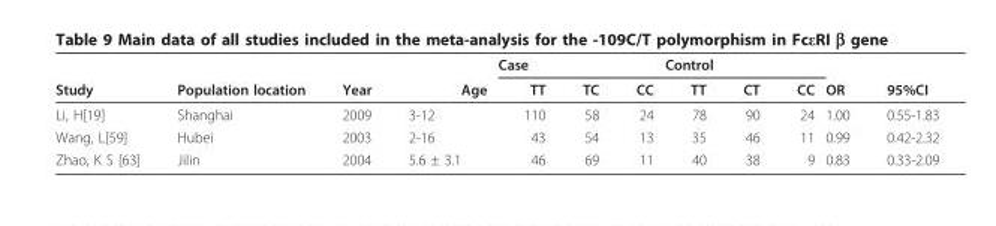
<table><thead><tr><td rowspan="2">Study</td><td rowspan="2">Population location</td><td rowspan="2">Year</td><td rowspan="2">Age</td><td colspan="3">Case</td><td colspan="3">Control</td><td rowspan="2">OR</td><td rowspan="2">95%CI</td></tr><tr><td>TT</td><td>TC</td><td>CC</td><td>TT</td><td>CT</td><td>CC</td></tr></thead><tbody><tr><td>Li, H[19]</td><td>Shanghai</td><td>2009</td><td>3-12</td><td>110</td><td>58</td><td>24</td><td>78</td><td>90</td><td>24</td><td>1.00</td><td>0.55-1.83</td></tr><tr><td>Wang, L[59]</td><td>Hubei</td><td>2003</td><td>2-16</td><td>43</td><td>54</td><td>13</td><td>35</td><td>46</td><td>11</td><td>0.99</td><td>0.42-2.32</td></tr><tr><td>Zhao, K S [63]</td><td>Jilin</td><td>2004</td><td>5.6 ± 3.1</td><td>46</td><td>69</td><td>11</td><td>40</td><td>38</td><td>9</td><td>0.83</td><td>0.33-2.09</td></tr></tbody></table>